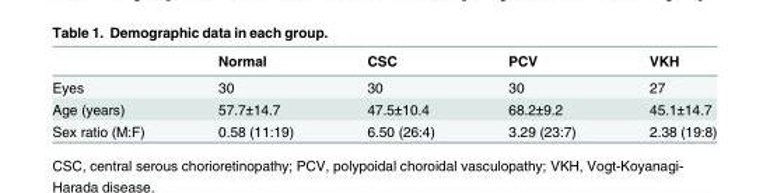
<table><thead><tr><td></td><td>Normal</td><td>CSC</td><td>PCV</td><td>VKH</td></tr></thead><tbody><tr><td>Eyes</td><td>30</td><td>30</td><td>30</td><td>27</td></tr><tr><td>Age (years)</td><td>57.7±14.7</td><td>47.5±10.4</td><td>68.2±9.2</td><td>45.1±14.7</td></tr><tr><td>Sex ratio (M:F)</td><td>0.58 (11:19)</td><td>6.50 (26:4)</td><td>3.29 (23:7)</td><td>2.38 (19:8)</td></tr></tbody></table>